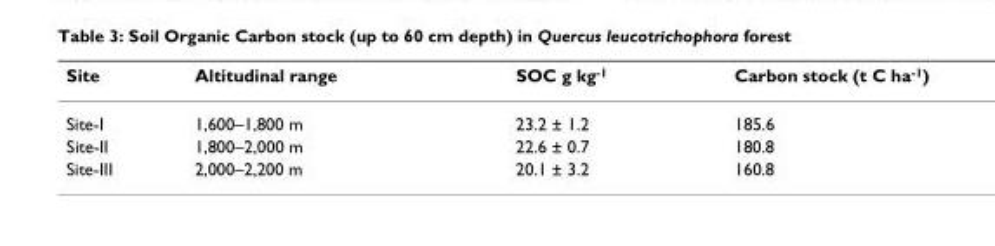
<table><thead><tr><td>Site</td><td>Altitudinal range</td><td>SOC g kg<sup>-1</sup></td><td>Carbon stock (t C ha<sup>-1</sup>)</td></tr></thead><tbody><tr><td>Site-I</td><td>1,600–1,800 m</td><td>23.2 ± 1.2</td><td>185.6</td></tr><tr><td>Site-II</td><td>1,800–2,000 m</td><td>22.6 ± 0.7</td><td>180.8</td></tr><tr><td>Site-III</td><td>2,000–2,200 m</td><td>20.1 ± 3.2</td><td>160.8</td></tr></tbody></table>